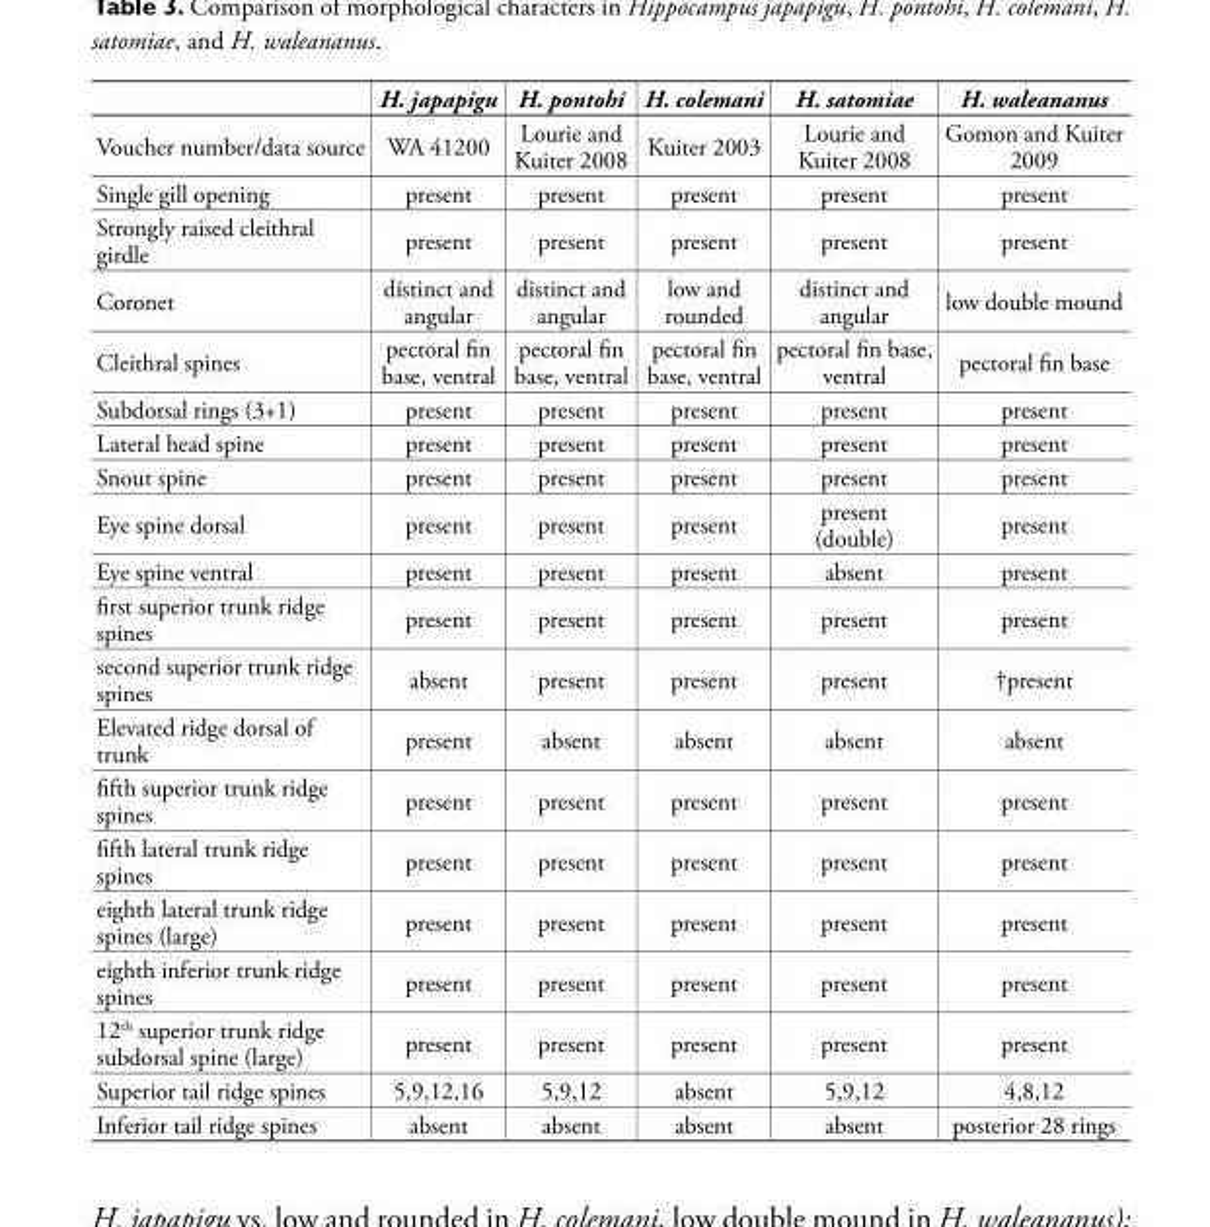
<table><thead><tr><td></td><td>H. japapigu</td><td>H. pontohi</td><td>H. colemani</td><td>H. satomiae</td><td>H. waleananus</td></tr></thead><tbody><tr><td>Voucher number/data source</td><td>WA 41200</td><td>Lourie and Kuiter 2008</td><td>Kuiter 2003</td><td>Lourie and Kuiter 2008</td><td>Gomon and Kuiter 2009</td></tr><tr><td>Single gill opening</td><td>present</td><td>present</td><td>present</td><td>present</td><td>present</td></tr><tr><td>Strongly raised cleithral girdle</td><td>present</td><td>present</td><td>present</td><td>present</td><td>present</td></tr><tr><td>Coronet</td><td>distinct and angular</td><td>distinct and angular</td><td>low and rounded</td><td>distinct and angular</td><td>low double mound</td></tr><tr><td>Cleithral spines</td><td>pectoral fin base, ventral</td><td>pectoral fin base, ventral</td><td>pectoral fin base, ventral</td><td>pectoral fin base, ventral</td><td>pectoral fin base</td></tr><tr><td>Subdorsal rings (3+1)</td><td>present</td><td>present</td><td>present</td><td>present</td><td>present</td></tr><tr><td>Lateral head spine</td><td>present</td><td>present</td><td>present</td><td>present</td><td>present</td></tr><tr><td>Snout spine</td><td>present</td><td>present</td><td>present</td><td>present</td><td>present</td></tr><tr><td>Eye spine dorsal</td><td>present</td><td>present</td><td>present</td><td>present (double)</td><td>present</td></tr><tr><td>Eye spine ventral</td><td>present</td><td>present</td><td>present</td><td>absent</td><td>present</td></tr><tr><td>first superior trunk ridge spines</td><td>present</td><td>present</td><td>present</td><td>present</td><td>present</td></tr><tr><td>second superior trunk ridge spines</td><td>absent</td><td>present</td><td>present</td><td>present</td><td>†present</td></tr><tr><td>Elevated ridge dorsal of trunk</td><td>present</td><td>absent</td><td>absent</td><td>absent</td><td>absent</td></tr><tr><td>fifth superior trunk ridge spines</td><td>present</td><td>present</td><td>present</td><td>present</td><td>present</td></tr><tr><td>fifth lateral trunk ridge spines</td><td>present</td><td>present</td><td>present</td><td>present</td><td>present</td></tr><tr><td>eighth lateral trunk ridge spines (large)</td><td>present</td><td>present</td><td>present</td><td>present</td><td>present</td></tr><tr><td>eighth inferior trunk ridge spines</td><td>present</td><td>present</td><td>present</td><td>present</td><td>present</td></tr><tr><td>12<sup>th</sup> superior trunk ridge subdorsal spine (large)</td><td>present</td><td>present</td><td>present</td><td>present</td><td>present</td></tr><tr><td>Superior tail ridge spines</td><td>5,9,12,16</td><td>5,9,12</td><td>absent</td><td>5,9,12</td><td>4,8,12</td></tr><tr><td>Inferior tail ridge spines</td><td>absent</td><td>absent</td><td>absent</td><td>absent</td><td>posterior 28 rings</td></tr></tbody></table>